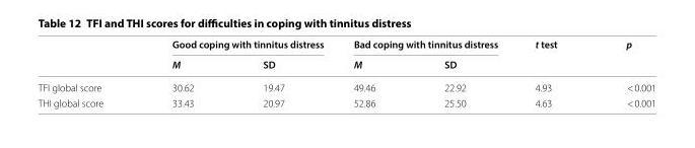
<table><thead><tr><td rowspan="2"></td><td colspan="2">Good coping with tinnitus distress</td><td colspan="2">Bad coping with tinnitus distress</td><td rowspan="2">t test</td><td rowspan="2">p</td></tr><tr><td>M</td><td>SD</td><td>M</td><td>SD</td></tr></thead><tbody><tr><td>TFI global score</td><td>30.62</td><td>19.47</td><td>49.46</td><td>22.92</td><td>4.93</td><td>&lt; 0.001</td></tr><tr><td>THI global score</td><td>33.43</td><td>20.97</td><td>52.86</td><td>25.50</td><td>4.63</td><td>&lt; 0.001</td></tr></tbody></table>